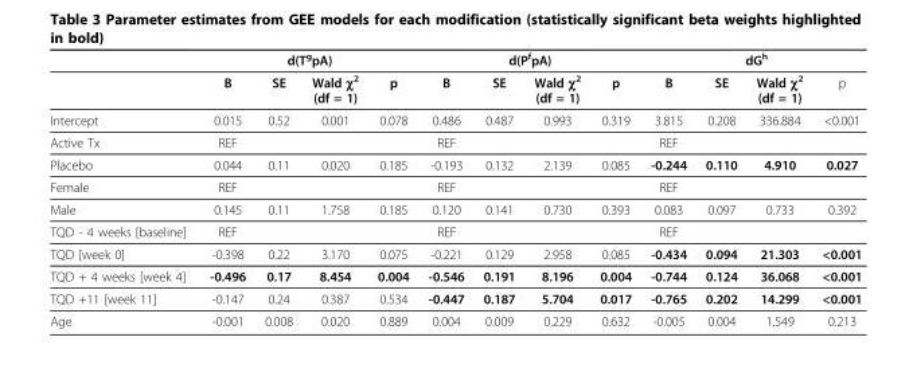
<table><thead><tr><td rowspan="2"></td><td colspan="4">d(T<sup>g</sup>pA)</td><td colspan="4">d(P<sup>f</sup>pA)</td><td colspan="4">dG<sup>h</sup></td></tr><tr><td>B</td><td>SE</td><td>Wald χ<sup>2</sup> (df = 1)</td><td>p</td><td>B</td><td>SE</td><td>Wald χ<sup>2</sup> (df = 1)</td><td>p</td><td>B</td><td>SE</td><td>Wald χ<sup>2</sup> (df = 1)</td><td>p</td></tr></thead><tbody><tr><td>Intercept</td><td>0.015</td><td>0.52</td><td>0.001</td><td>0.078</td><td>0.486</td><td>0.487</td><td>0.993</td><td>0.319</td><td>3.815</td><td>0.208</td><td>336.884</td><td>&lt;0.001</td></tr><tr><td>Active Tx</td><td>REF</td><td></td><td></td><td></td><td>REF</td><td></td><td></td><td></td><td>REF</td><td></td><td></td><td></td></tr><tr><td>Placebo</td><td>0.044</td><td>0.11</td><td>0.020</td><td>0.185</td><td>-0.193</td><td>0.132</td><td>2.139</td><td>0.085</td><td>-0.244</td><td>0.110</td><td>4.910</td><td>0.027</td></tr><tr><td>Female</td><td>REF</td><td></td><td></td><td></td><td>REF</td><td></td><td></td><td></td><td>REF</td><td></td><td></td><td></td></tr><tr><td>Male</td><td>0.145</td><td>0.11</td><td>1.758</td><td>0.185</td><td>0.120</td><td>0.141</td><td>0.730</td><td>0.393</td><td>0.083</td><td>0.097</td><td>0.733</td><td>0.392</td></tr><tr><td>TQD - 4 weeks [baseline]</td><td>REF</td><td></td><td></td><td></td><td>REF</td><td></td><td></td><td></td><td>REF</td><td></td><td></td><td></td></tr><tr><td>TQD [week 0]</td><td>-0.398</td><td>0.22</td><td>3.170</td><td>0.075</td><td>-0.221</td><td>0.129</td><td>2.958</td><td>0.085</td><td>-0.434</td><td>0.094</td><td>21.303</td><td>&lt;0.001</td></tr><tr><td>TQD + 4 weeks [week 4]</td><td>-0.496</td><td>0.17</td><td>8.454</td><td>0.004</td><td>-0.546</td><td>0.191</td><td>8.196</td><td>0.004</td><td>-0.744</td><td>0.124</td><td>36.068</td><td>&lt;0.001</td></tr><tr><td>TQD +11 [week 11]</td><td>-0.147</td><td>0.24</td><td>0.387</td><td>0.534</td><td>-0.447</td><td>0.187</td><td>5.704</td><td>0.017</td><td>-0.765</td><td>0.202</td><td>14.299</td><td>&lt;0.001</td></tr><tr><td>Age</td><td>-0.001</td><td>0.008</td><td>0.020</td><td>0.889</td><td>0.004</td><td>0.009</td><td>0.229</td><td>0.632</td><td>-0.005</td><td>0.004</td><td>1.549</td><td>0.213</td></tr></tbody></table>